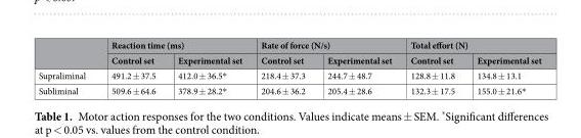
<table><thead><tr><td rowspan="2"></td><td colspan="2">Reaction time (ms)</td><td colspan="2">Rate of force (N/s)</td><td colspan="2">Total effort (N)</td></tr><tr><td>Control set</td><td>Experimental set</td><td>Control set</td><td>Experimental set</td><td>Control set</td><td>Experimental set</td></tr></thead><tbody><tr><td>Supraliminal</td><td>491.2 ± 37.5</td><td>412.0 ± 36.5*</td><td>218.4 ± 37.3</td><td>244.7 ± 48.7</td><td>128.8 ± 11.8</td><td>134.8 ± 13.1</td></tr><tr><td>Subliminal</td><td>509.6 ± 64.6</td><td>378.9 ± 28.2*</td><td>204.6 ± 36.2</td><td>205.4 ± 28.6</td><td>132.3 ± 17.5</td><td>155.0 ± 21.6*</td></tr></tbody></table>